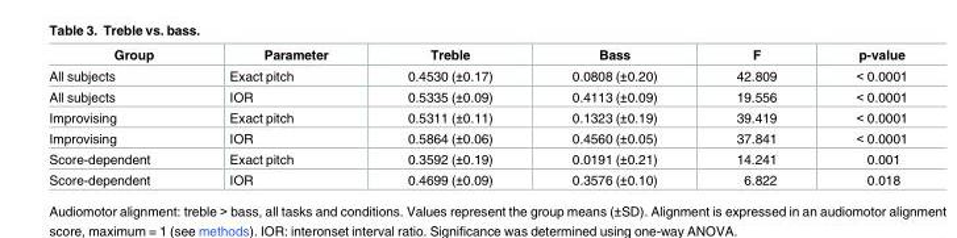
<table><thead><tr><td>Group</td><td>Parameter</td><td>Treble</td><td>Bass</td><td>F</td><td>p-value</td></tr></thead><tbody><tr><td>All subjects</td><td>Exact pitch</td><td>0.4530 (±0.17)</td><td>0.0808 (±0.20)</td><td>42.809</td><td>&lt; 0.0001</td></tr><tr><td>All subjects</td><td>IOR</td><td>0.5335 (±0.09)</td><td>0.4113 (±0.09)</td><td>19.556</td><td>&lt; 0.0001</td></tr><tr><td>Improvising</td><td>Exact pitch</td><td>0.5311 (±0.11)</td><td>0.1323 (±0.19)</td><td>39.419</td><td>&lt; 0.0001</td></tr><tr><td>Improvising</td><td>IOR</td><td>0.5864 (±0.06)</td><td>0.4560 (±0.05)</td><td>37.841</td><td>&lt; 0.0001</td></tr><tr><td>Score-dependent</td><td>Exact pitch</td><td>0.3592 (±0.19)</td><td>0.0191 (±0.21)</td><td>14.241</td><td>0.001</td></tr><tr><td>Score-dependent</td><td>IOR</td><td>0.4699 (±0.09)</td><td>0.3576 (±0.10)</td><td>6.822</td><td>0.018</td></tr></tbody></table>